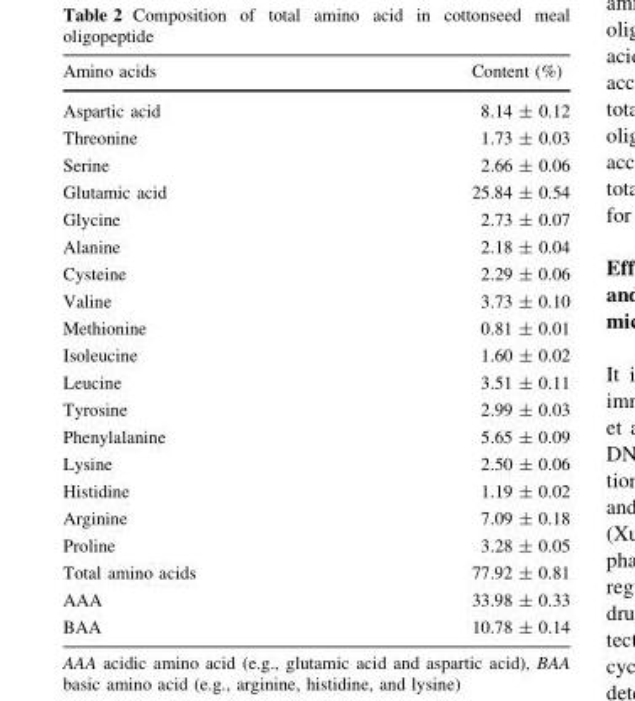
<table><thead><tr><td>Amino acids</td><td>Content (%)</td></tr></thead><tbody><tr><td>Aspartic acid</td><td>8.14 ± 0.12</td></tr><tr><td>Threonine</td><td>1.73 ± 0.03</td></tr><tr><td>Serine</td><td>2.66 ± 0.06</td></tr><tr><td>Glutamic acid</td><td>25.84 ± 0.54</td></tr><tr><td>Glycine</td><td>2.73 ± 0.07</td></tr><tr><td>Alanine</td><td>2.18 ± 0.04</td></tr><tr><td>Cysteine</td><td>2.29 ± 0.06</td></tr><tr><td>Valine</td><td>3.73 ± 0.10</td></tr><tr><td>Methionine</td><td>0.81 ± 0.01</td></tr><tr><td>Isoleucine</td><td>1.60 ± 0.02</td></tr><tr><td>Leucine</td><td>3.51 ± 0.11</td></tr><tr><td>Tyrosine</td><td>2.99 ± 0.03</td></tr><tr><td>Phenylalanine</td><td>5.65 ± 0.09</td></tr><tr><td>Lysine</td><td>2.50 ± 0.06</td></tr><tr><td>Histidine</td><td>1.19 ± 0.02</td></tr><tr><td>Arginine</td><td>7.09 ± 0.18</td></tr><tr><td>Proline</td><td>3.28 ± 0.05</td></tr><tr><td>Total amino acids</td><td>77.92 ± 0.81</td></tr><tr><td>AAA</td><td>33.98 ± 0.33</td></tr><tr><td>BAA</td><td>10.78 ± 0.14</td></tr></tbody></table>